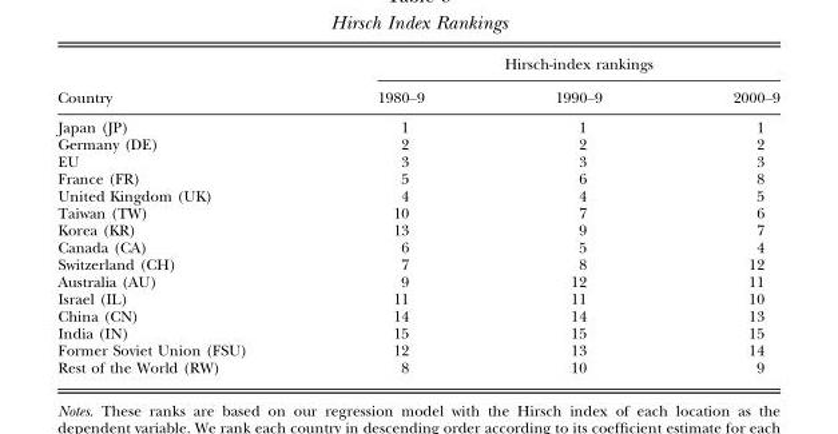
<table><thead><tr><td rowspan="2">Country</td><td colspan="3">Hirsch-index rankings</td></tr><tr><td>1980–9</td><td>1990–9</td><td>2000–9</td></tr></thead><tbody><tr><td>Japan (JP)</td><td>1</td><td>1</td><td>1</td></tr><tr><td>Germany (DE)</td><td>2</td><td>2</td><td>2</td></tr><tr><td>EU</td><td>3</td><td>3</td><td>3</td></tr><tr><td>France (FR)</td><td>5</td><td>6</td><td>8</td></tr><tr><td>United Kingdom (UK)</td><td>4</td><td>4</td><td>5</td></tr><tr><td>Taiwan (TW)</td><td>10</td><td>7</td><td>6</td></tr><tr><td>Korea (KR)</td><td>13</td><td>9</td><td>7</td></tr><tr><td>Canada (CA)</td><td>6</td><td>5</td><td>4</td></tr><tr><td>Switzerland (CH)</td><td>7</td><td>8</td><td>12</td></tr><tr><td>Australia (AU)</td><td>9</td><td>12</td><td>11</td></tr><tr><td>Israel (IL)</td><td>11</td><td>11</td><td>10</td></tr><tr><td>China (CN)</td><td>14</td><td>14</td><td>13</td></tr><tr><td>India (IN)</td><td>15</td><td>15</td><td>15</td></tr><tr><td>Former Soviet Union (FSU)</td><td>12</td><td>13</td><td>14</td></tr><tr><td>Rest of the World (RW)</td><td>8</td><td>10</td><td>9</td></tr></tbody></table>